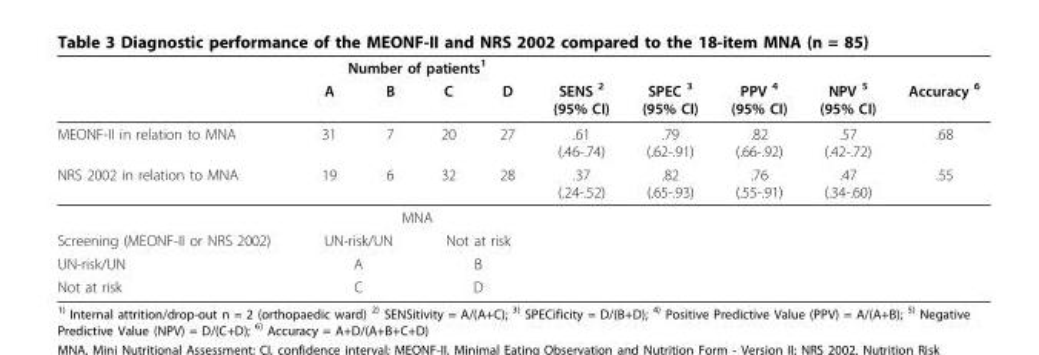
<table><thead><tr><td rowspan="2"></td><td colspan="4">Number of patients<sup>1</sup></td><td rowspan="2">SENS <sup>2</sup> (95% CI)</td><td rowspan="2">SPEC <sup>3</sup> (95% CI)</td><td rowspan="2">PPV <sup>4</sup> (95% CI)</td><td rowspan="2">NPV <sup>5</sup> (95% CI)</td><td rowspan="2">Accuracy <sup>6</sup></td></tr><tr><td>A</td><td>B</td><td>C</td><td>D</td></tr></thead><tbody><tr><td>MEONF-II in relation to MNA</td><td>31</td><td>7</td><td>20</td><td>27</td><td>.61 (.46-.74)</td><td>.79 (.62-.91)</td><td>.82 (.66-.92)</td><td>.57 (.42-.72)</td><td>.68</td></tr><tr><td rowspan="2">NRS 2002 in relation to MNA</td><td>19</td><td>6</td><td>32</td><td>28</td><td>.37 (.24-.52)</td><td>.82 (.65-.93)</td><td>.76 (.55-.91)</td><td>.47 (.34-.60)</td><td>.55</td></tr><tr><td colspan="4">MNA</td><td></td><td></td><td></td><td></td><td></td></tr><tr><td>Screening (MEONF-II or NRS 2002)</td><td colspan="2">UN-risk/UN</td><td colspan="2">Not at risk</td><td></td><td></td><td></td><td></td><td></td></tr><tr><td>UN-risk/UN</td><td colspan="2">A</td><td colspan="2">B</td><td></td><td></td><td></td><td></td><td></td></tr><tr><td>Not at risk</td><td colspan="2">C</td><td colspan="2">D</td><td></td><td></td><td></td><td></td><td></td></tr></tbody></table>